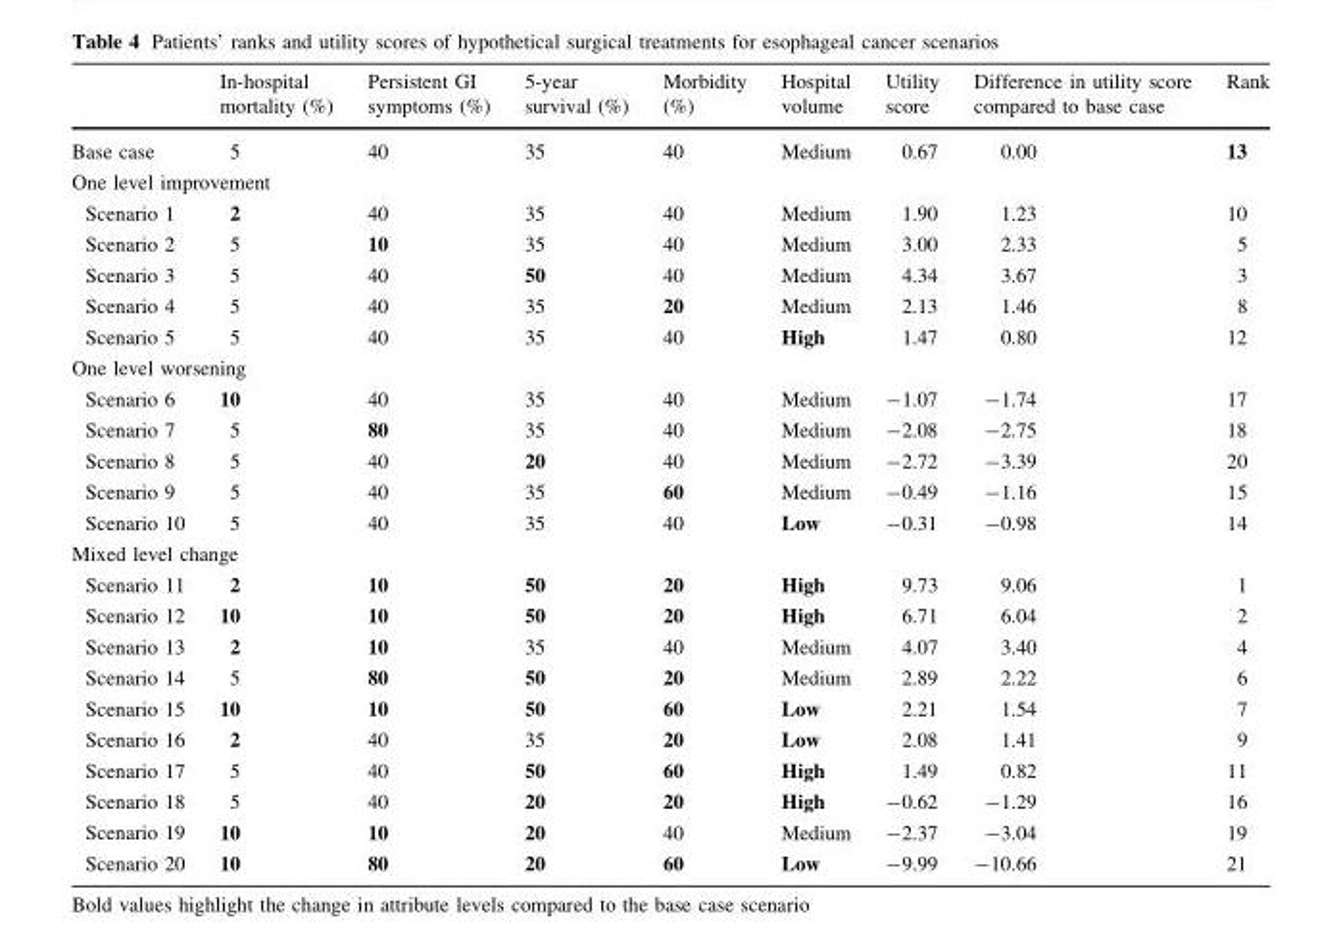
<table><thead><tr><td></td><td>In-hospital mortality (%)</td><td>Persistent GI symptoms (%)</td><td>5-year survival (%)</td><td>Morbidity (%)</td><td>Hospital volume</td><td>Utility score</td><td>Difference in utility score compared to base case</td><td>Rank</td></tr></thead><tbody><tr><td>Base case</td><td>5</td><td>40</td><td>35</td><td>40</td><td>Medium</td><td>0.67</td><td>0.00</td><td>13</td></tr><tr><td colspan="9">One level improvement</td></tr><tr><td>Scenario 1</td><td>2</td><td>40</td><td>35</td><td>40</td><td>Medium</td><td>1.90</td><td>1.23</td><td>10</td></tr><tr><td>Scenario 2</td><td>5</td><td>10</td><td>35</td><td>40</td><td>Medium</td><td>3.00</td><td>2.33</td><td>5</td></tr><tr><td>Scenario 3</td><td>5</td><td>40</td><td>50</td><td>40</td><td>Medium</td><td>4.34</td><td>3.67</td><td>3</td></tr><tr><td>Scenario 4</td><td>5</td><td>40</td><td>35</td><td>20</td><td>Medium</td><td>2.13</td><td>1.46</td><td>8</td></tr><tr><td>Scenario 5</td><td>5</td><td>40</td><td>35</td><td>40</td><td>High</td><td>1.47</td><td>0.80</td><td>12</td></tr><tr><td colspan="9">One level worsening</td></tr><tr><td>Scenario 6</td><td>10</td><td>40</td><td>35</td><td>40</td><td>Medium</td><td>-1.07</td><td>-1.74</td><td>17</td></tr><tr><td>Scenario 7</td><td>5</td><td>80</td><td>35</td><td>40</td><td>Medium</td><td>-2.08</td><td>-2.75</td><td>18</td></tr><tr><td>Scenario 8</td><td>5</td><td>40</td><td>20</td><td>40</td><td>Medium</td><td>-2.72</td><td>-3.39</td><td>20</td></tr><tr><td>Scenario 9</td><td>5</td><td>40</td><td>35</td><td>60</td><td>Medium</td><td>-0.49</td><td>-1.16</td><td>15</td></tr><tr><td>Scenario 10</td><td>5</td><td>40</td><td>35</td><td>40</td><td>Low</td><td>-0.31</td><td>-0.98</td><td>14</td></tr><tr><td colspan="9">Mixed level change</td></tr><tr><td>Scenario 11</td><td>2</td><td>10</td><td>50</td><td>20</td><td>High</td><td>9.73</td><td>9.06</td><td>1</td></tr><tr><td>Scenario 12</td><td>10</td><td>10</td><td>50</td><td>20</td><td>High</td><td>6.71</td><td>6.04</td><td>2</td></tr><tr><td>Scenario 13</td><td>2</td><td>10</td><td>35</td><td>40</td><td>Medium</td><td>4.07</td><td>3.40</td><td>4</td></tr><tr><td>Scenario 14</td><td>5</td><td>80</td><td>50</td><td>20</td><td>Medium</td><td>2.89</td><td>2.22</td><td>6</td></tr><tr><td>Scenario 15</td><td>10</td><td>10</td><td>50</td><td>60</td><td>Low</td><td>2.21</td><td>1.54</td><td>7</td></tr><tr><td>Scenario 16</td><td>2</td><td>40</td><td>35</td><td>20</td><td>Low</td><td>2.08</td><td>1.41</td><td>9</td></tr><tr><td>Scenario 17</td><td>5</td><td>40</td><td>50</td><td>60</td><td>High</td><td>1.49</td><td>0.82</td><td>11</td></tr><tr><td>Scenario 18</td><td>5</td><td>40</td><td>20</td><td>20</td><td>High</td><td>-0.62</td><td>-1.29</td><td>16</td></tr><tr><td>Scenario 19</td><td>10</td><td>10</td><td>20</td><td>40</td><td>Medium</td><td>-2.37</td><td>-3.04</td><td>19</td></tr><tr><td>Scenario 20</td><td>10</td><td>80</td><td>20</td><td>60</td><td>Low</td><td>-9.99</td><td>-10.66</td><td>21</td></tr></tbody></table>